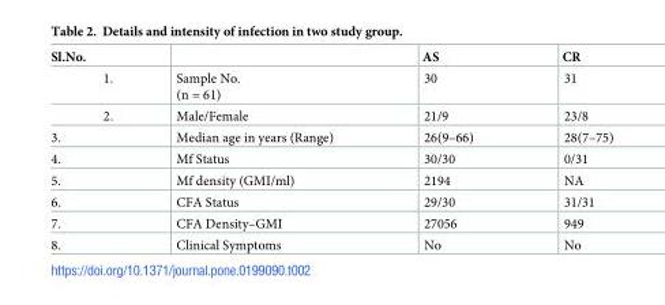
<table><thead><tr><td>Sl.No.</td><td></td><td>AS</td><td>CR</td></tr></thead><tbody><tr><td>1.</td><td>Sample No. (n = 61)</td><td>30</td><td>31</td></tr><tr><td>2.</td><td>Male/Female</td><td>21/9</td><td>23/8</td></tr><tr><td>3.</td><td>Median age in years (Range)</td><td>26(9–66)</td><td>28(7–75)</td></tr><tr><td>4.</td><td>Mf Status</td><td>30/30</td><td>0/31</td></tr><tr><td>5.</td><td>Mf density (GMI/ml)</td><td>2194</td><td>NA</td></tr><tr><td>6.</td><td>CFA Status</td><td>29/30</td><td>31/31</td></tr><tr><td>7.</td><td>CFA Density–GMI</td><td>27056</td><td>949</td></tr><tr><td>8.</td><td>Clinical Symptoms</td><td>No</td><td>No</td></tr></tbody></table>